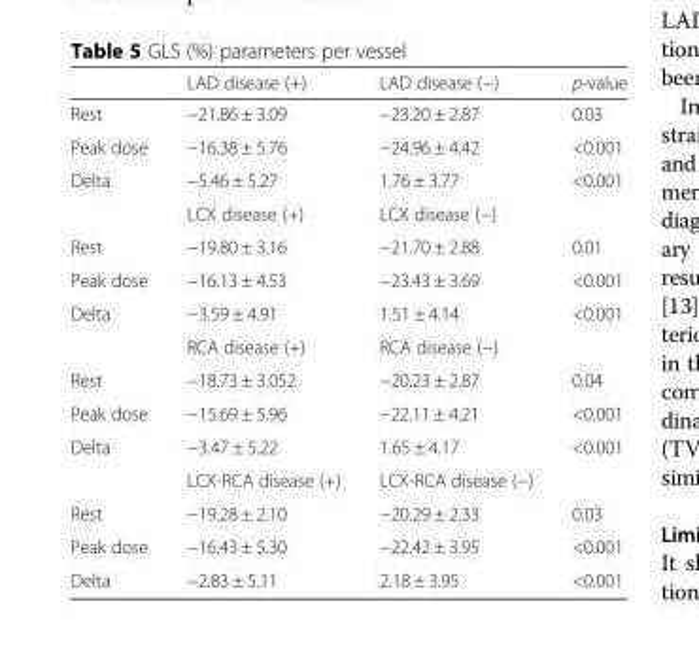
<table><thead><tr><td></td><td>LAD disease (+)</td><td>LAD disease (−)</td><td>p-value</td></tr></thead><tbody><tr><td>Rest</td><td>−21.86 ± 3.09</td><td>−23.20 ± 2.87</td><td>0.03</td></tr><tr><td>Peak dose</td><td>−16.38 ± 5.76</td><td>−24.96 ± 4.42</td><td>&lt;0.001</td></tr><tr><td rowspan="2">Delta</td><td>−5.46 ± 5.27</td><td>1.76 ± 3.77</td><td>&lt;0.001</td></tr><tr><td>LCX disease (+)</td><td>LCX disease (−)</td><td></td></tr><tr><td>Rest</td><td>−19.80 ± 3.16</td><td>−21.70 ± 2.88</td><td>0.01</td></tr><tr><td>Peak dose</td><td>−16.13 ± 4.53</td><td>−23.43 ± 3.69</td><td>&lt;0.001</td></tr><tr><td rowspan="2">Delta</td><td>−3.59 ± 4.91</td><td>1.51 ± 4.14</td><td>&lt;0.001</td></tr><tr><td>RCA disease (+)</td><td>RCA disease (−)</td><td></td></tr><tr><td>Rest</td><td>−18.73 ± 3.052</td><td>−20.23 ± 2.87</td><td>0.04</td></tr><tr><td>Peak dose</td><td>−15.69 ± 5.96</td><td>−22.11 ± 4.21</td><td>&lt;0.001</td></tr><tr><td rowspan="2">Delta</td><td>−3.47 ± 5.22</td><td>1.65 ± 4.17</td><td>&lt;0.001</td></tr><tr><td>LCX-RCA disease (+)</td><td>LCX-RCA disease (−)</td><td></td></tr><tr><td>Rest</td><td>−19.28 ± 2.10</td><td>−20.29 ± 2.33</td><td>0.03</td></tr><tr><td>Peak dose</td><td>−16.43 ± 5.30</td><td>−22.42 ± 3.95</td><td>&lt;0.001</td></tr><tr><td>Delta</td><td>−2.83 ± 5.11</td><td>2.18 ± 3.95</td><td>&lt;0.001</td></tr></tbody></table>